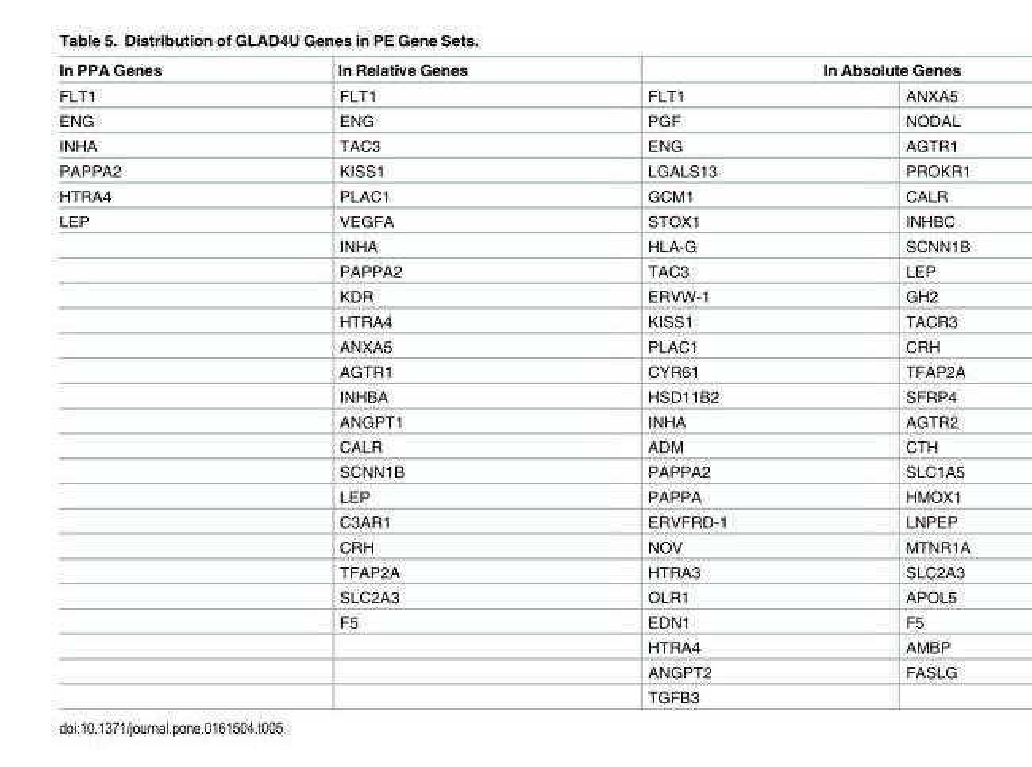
<table><thead><tr><td rowspan="2">In PPA Genes FLT1</td><td rowspan="2">In Relative Genes FLT1</td><td colspan="2">In Absolute Genes</td></tr><tr><td>FLT1</td><td>ANXA5</td></tr></thead><tbody><tr><td>ENG</td><td>ENG</td><td>PGF</td><td>NODAL</td></tr><tr><td>INHA</td><td>TAC3</td><td>ENG</td><td>AGTR1</td></tr><tr><td>PAPPA2</td><td>KISS1</td><td>LGALS13</td><td>PROKR1</td></tr><tr><td>HTRA4</td><td>PLAC1</td><td>GCM1</td><td>CALR</td></tr><tr><td rowspan="20">LEP</td><td>VEGFA</td><td>STOX1</td><td>INHBC</td></tr><tr><td>INHA</td><td>HLA-G</td><td>SCNN1B</td></tr><tr><td>PAPPA2</td><td>TAC3</td><td>LEP</td></tr><tr><td>KDR</td><td>ERVW-1</td><td>GH2</td></tr><tr><td>HTRA4</td><td>KISS1</td><td>TACR3</td></tr><tr><td>ANXA5</td><td>PLAC1</td><td>CRH</td></tr><tr><td>AGTR1</td><td>CYR61</td><td>TFAP2A</td></tr><tr><td>INHBA</td><td>HSD11B2</td><td>SFRP4</td></tr><tr><td>ANGPT1</td><td>INHA</td><td>AGTR2</td></tr><tr><td>CALR</td><td>ADM</td><td>CTH</td></tr><tr><td>SCNN1B</td><td>PAPPA2</td><td>SLC1A5</td></tr><tr><td>LEP</td><td>PAPPA</td><td>HMOX1</td></tr><tr><td>C3AR1</td><td>ERVFRD-1</td><td>LNPEP</td></tr><tr><td>CRH</td><td>NOV</td><td>MTNR1A</td></tr><tr><td>TFAP2A</td><td>HTRA3</td><td>SLC2A3</td></tr><tr><td>SLC2A3</td><td>OLR1</td><td>APOL5</td></tr><tr><td>F5</td><td>EDN1</td><td>F5</td></tr><tr><td></td><td>HTRA4</td><td>AMBP</td></tr><tr><td></td><td>ANGPT2</td><td>FASLG</td></tr><tr><td></td><td>TGFB3</td><td></td></tr></tbody></table>